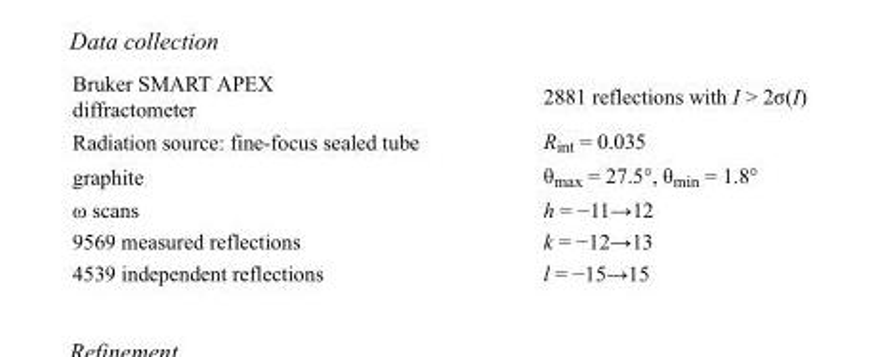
<table><tbody><tr><td>Bruker SMART APEX diffractometer</td><td>2881 reflections with I &gt; 2σ(I)</td></tr><tr><td>Radiation source: fine-focus sealed tube</td><td>R<sub>int</sub> = 0.035</td></tr><tr><td>graphite</td><td>θ<sub>max</sub> = 27.5°, θ<sub>min</sub> = 1.8°</td></tr><tr><td>ω scans</td><td>h = −11→12</td></tr><tr><td>9569 measured reflections</td><td>k = −12→13</td></tr><tr><td>4539 independent reflections</td><td>l = −15→15</td></tr></tbody></table>